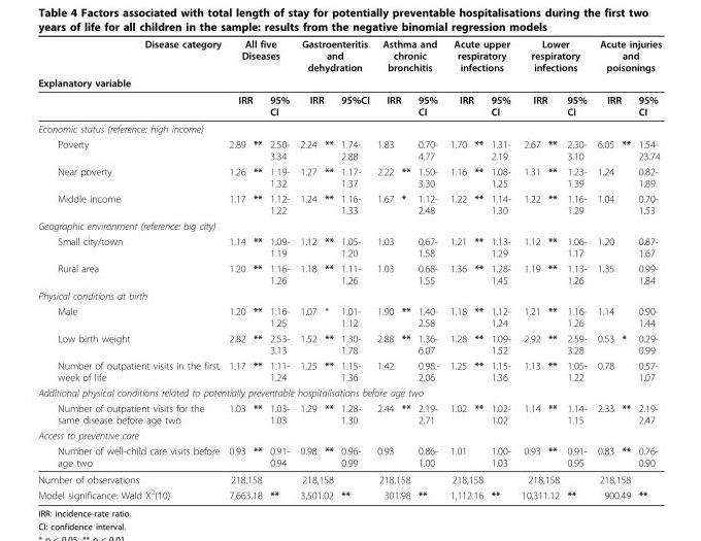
<table><thead><tr><td>Disease category</td><td colspan="3">All five Diseases</td><td colspan="3">Gastroenteritis and dehydration</td><td colspan="3">Asthma and chronic bronchitis</td><td colspan="3">Acute upper respiratory infections</td><td colspan="3">Lower respiratory infections</td><td colspan="3">Acute injuries and poisonings</td></tr><tr><td colspan="19">Explanatory variable</td></tr><tr><td></td><td colspan="2">IRR</td><td>95% CI</td><td colspan="2">IRR</td><td>95%CI</td><td colspan="2">IRR</td><td>95% CI</td><td colspan="2">IRR</td><td>95% CI</td><td colspan="2">IRR</td><td>95% CI</td><td colspan="2">IRR</td><td>95% CI</td></tr><tr><td colspan="19">Economic status (reference: high income)</td></tr><tr><td>Poverty</td><td>2.89</td><td>**</td><td>2.50- 3.34</td><td>2.24</td><td>**</td><td>1.74- 2.88</td><td>1.83</td><td></td><td>0.70- 4.77</td><td>1.70</td><td>**</td><td>1.31- 2.19</td><td>2.67</td><td>**</td><td>2.30- 3.10</td><td>6.05</td><td>**</td><td>1.54- 23.74</td></tr></thead><tbody><tr><td>Near poverty</td><td>1.26</td><td>**</td><td>1.19- 1.32</td><td>1.27</td><td>**</td><td>1.17- 1.37</td><td>2.22</td><td>**</td><td>1.50- 3.30</td><td>1.16</td><td>**</td><td>1.08- 1.25</td><td>1.31</td><td>**</td><td>1.23- 1.39</td><td>1.24</td><td></td><td>0.82- 1.89</td></tr><tr><td>Middle income</td><td>1.17</td><td>**</td><td>1.12- 1.22</td><td>1.24</td><td>**</td><td>1.16- 1.33</td><td>1.67</td><td>*</td><td>1.12- 2.48</td><td>1.22</td><td>**</td><td>1.14- 1.30</td><td>1.22</td><td>**</td><td>1.16- 1.29</td><td>1.04</td><td></td><td>0.70- 1.53</td></tr><tr><td colspan="19">Geographic environment (reference: big city)</td></tr><tr><td>Small city/town</td><td>1.14</td><td>**</td><td>1.09- 1.19</td><td>1.12</td><td>**</td><td>1.05- 1.20</td><td>1.03</td><td></td><td>0.67- 1.58</td><td>1.21</td><td>**</td><td>1.13- 1.29</td><td>1.12</td><td>**</td><td>1.06- 1.17</td><td>1.20</td><td></td><td>0.87- 1.67</td></tr><tr><td>Rural area</td><td>1.20</td><td>**</td><td>1.16- 1.26</td><td>1.18</td><td>**</td><td>1.11- 1.26</td><td>1.03</td><td></td><td>0.68- 1.55</td><td>1.36</td><td>**</td><td>1.28- 1.45</td><td>1.19</td><td>**</td><td>1.13- 1.26</td><td>1.35</td><td></td><td>0.99- 1.84</td></tr><tr><td colspan="19">Physical conditions at birth</td></tr><tr><td>Male</td><td>1.20</td><td>**</td><td>1.16- 1.25</td><td>1.07</td><td>*</td><td>1.01- 1.12</td><td>1.90</td><td>**</td><td>1.40- 2.58</td><td>1.18</td><td>**</td><td>1.12- 1.24</td><td>1.21</td><td>**</td><td>1.16- 1.26</td><td>1.14</td><td></td><td>0.90- 1.44</td></tr><tr><td>Low birth weight</td><td>2.82</td><td>**</td><td>2.53- 3.13</td><td>1.52</td><td>**</td><td>1.30- 1.78</td><td>2.88</td><td>**</td><td>1.36- 6.07</td><td>1.28</td><td>**</td><td>1.09- 1.52</td><td>2.92</td><td>**</td><td>2.59- 3.28</td><td>0.53</td><td>*</td><td>0.29- 0.99</td></tr><tr><td>Number of outpatient visits in the first week of life</td><td>1.17</td><td>**</td><td>1.11- 1.24</td><td>1.25</td><td>**</td><td>1.15- 1.36</td><td>1.42</td><td></td><td>0.98.- 2.06</td><td>1.25</td><td>**</td><td>1.15- 1.36</td><td>1.13</td><td>**</td><td>1.05- 1.22</td><td>0.78</td><td></td><td>0.57- 1.07</td></tr><tr><td colspan="19">Additional physical conditions related to potentially preventable hospitalisations before age two</td></tr><tr><td>Number of outpatient visits for the same disease before age two</td><td>1.03</td><td>**</td><td>1.03- 1.03</td><td>1.29</td><td>**</td><td>1.28- 1.30</td><td>2.44</td><td>**</td><td>2.19- 2.71</td><td>1.02</td><td>**</td><td>1.02- 1.02</td><td>1.14</td><td>**</td><td>1.14- 1.15</td><td>2.33</td><td>**</td><td>2.19- 2.47</td></tr><tr><td colspan="19">Access to preventive care</td></tr><tr><td>Number of well-child care visits before age two</td><td>0.93</td><td>**</td><td>0.91- 0.94</td><td>0.98</td><td>**</td><td>0.96- 0.99</td><td>0.93</td><td></td><td>0.86- 1.00</td><td>1.01</td><td></td><td>1.00- 1.03</td><td>0.93</td><td>**</td><td>0.91- 0.95</td><td>0.83</td><td>**</td><td>0.76- 0.90</td></tr><tr><td>Number of observations</td><td colspan="2">218,158</td><td></td><td colspan="2">218,158</td><td></td><td colspan="2">218,158</td><td></td><td colspan="2">218,158</td><td></td><td colspan="2">218,158</td><td></td><td colspan="2">218,158</td><td></td></tr><tr><td>Model significance: Wald Χ<sup>2</sup>(10)</td><td colspan="2">7,663.18</td><td>**</td><td colspan="2">3,501.02</td><td>**</td><td colspan="2">301.98</td><td>**</td><td colspan="2">1,112.16</td><td>**</td><td colspan="2">10,311.12</td><td>**</td><td colspan="2">900.49</td><td>**</td></tr></tbody></table>